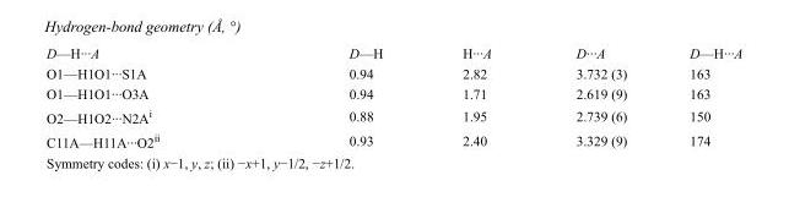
<table><tbody><tr><td>D—H···A</td><td>D—H</td><td>H···A</td><td>D···A</td><td>D—H···A</td></tr><tr><td>O1—H1O1···S1A</td><td>0.94</td><td>2.82</td><td>3.732 (3)</td><td>163</td></tr><tr><td>O1—H1O1···O3A</td><td>0.94</td><td>1.71</td><td>2.619 (9)</td><td>163</td></tr><tr><td>O2—H1O2···N2A<sup>i</sup></td><td>0.88</td><td>1.95</td><td>2.739 (6)</td><td>150</td></tr><tr><td>C11A—H11A···O2<sup>ii</sup></td><td>0.93</td><td>2.40</td><td>3.329 (9)</td><td>174</td></tr></tbody></table>